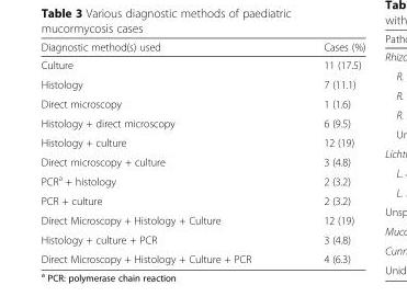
<table><thead><tr><td>Diagnostic method(s) used</td><td>Cases (%)</td></tr></thead><tbody><tr><td>Culture</td><td>11 (17.5)</td></tr><tr><td>Histology</td><td>7 (11.1)</td></tr><tr><td>Direct microscopy</td><td>1 (1.6)</td></tr><tr><td>Histology + direct microscopy</td><td>6 (9.5)</td></tr><tr><td>Histology + culture</td><td>12 (19)</td></tr><tr><td>Direct microscopy + culture</td><td>3 (4.8)</td></tr><tr><td>PCR<sup>a</sup> + histology</td><td>2 (3.2)</td></tr><tr><td>PCR + culture</td><td>2 (3.2)</td></tr><tr><td>Direct Microscopy + Histology + Culture</td><td>12 (19)</td></tr><tr><td>Histology + culture + PCR</td><td>3 (4.8)</td></tr><tr><td>Direct Microscopy + Histology + Culture + PCR</td><td>4 (6.3)</td></tr></tbody></table>